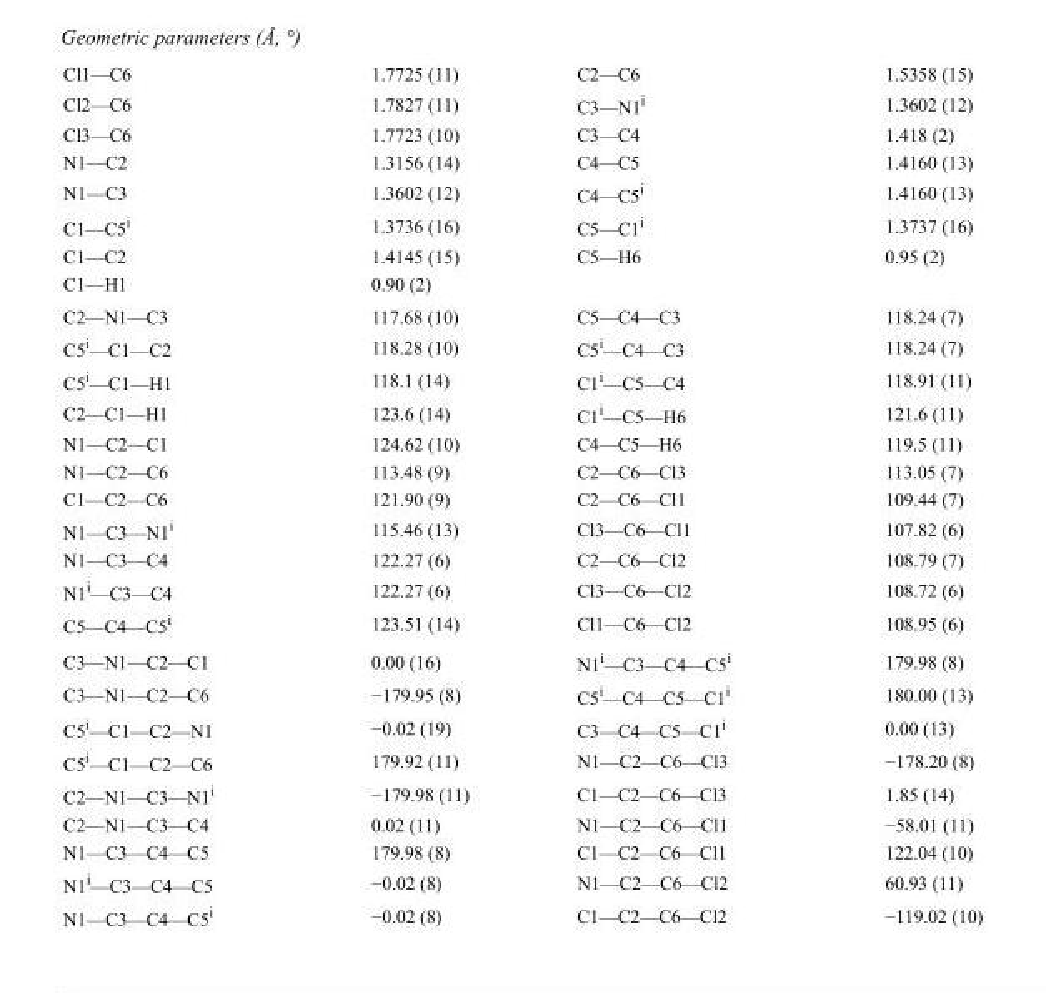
<table><tbody><tr><td>Cl1—C6</td><td>1.7725 (11)</td><td>C2—C6</td><td>1.5358 (15)</td></tr><tr><td>Cl2—C6</td><td>1.7827 (11)</td><td>C3—N1<sup>i</sup></td><td>1.3602 (12)</td></tr><tr><td>Cl3—C6</td><td>1.7723 (10)</td><td>C3—C4</td><td>1.418 (2)</td></tr><tr><td>N1—C2</td><td>1.3156 (14)</td><td>C4—C5</td><td>1.4160 (13)</td></tr><tr><td>N1—C3</td><td>1.3602 (12)</td><td>C4—C5<sup>i</sup></td><td>1.4160 (13)</td></tr><tr><td>C1—C5<sup>i</sup></td><td>1.3736 (16)</td><td>C5—C1<sup>i</sup></td><td>1.3737 (16)</td></tr><tr><td>C1—C2</td><td>1.4145 (15)</td><td>C5—H6</td><td>0.95 (2)</td></tr><tr><td>C1—H1</td><td>0.90 (2)</td><td></td><td></td></tr><tr><td>C2—N1—C3</td><td>117.68 (10)</td><td>C5—C4—C3</td><td>118.24 (7)</td></tr><tr><td>C5<sup>i</sup>—C1—C2</td><td>118.28 (10)</td><td>C5<sup>i</sup>—C4—C3</td><td>118.24 (7)</td></tr><tr><td>C5<sup>i</sup>—C1—H1</td><td>118.1 (14)</td><td>C1<sup>i</sup>—C5—C4</td><td>118.91 (11)</td></tr><tr><td>C2—C1—H1</td><td>123.6 (14)</td><td>C1<sup>i</sup>—C5—H6</td><td>121.6 (11)</td></tr><tr><td>N1—C2—C1</td><td>124.62 (10)</td><td>C4—C5—H6</td><td>119.5 (11)</td></tr><tr><td>N1—C2—C6</td><td>113.48 (9)</td><td>C2—C6—Cl3</td><td>113.05 (7)</td></tr><tr><td>C1—C2—C6</td><td>121.90 (9)</td><td>C2—C6—Cl1</td><td>109.44 (7)</td></tr><tr><td>N1—C3—N1<sup>i</sup></td><td>115.46 (13)</td><td>Cl3—C6—Cl1</td><td>107.82 (6)</td></tr><tr><td>N1—C3—C4</td><td>122.27 (6)</td><td>C2—C6—Cl2</td><td>108.79 (7)</td></tr><tr><td>N1<sup>i</sup>—C3—C4</td><td>122.27 (6)</td><td>Cl3—C6—Cl2</td><td>108.72 (6)</td></tr><tr><td>C5—C4—C5<sup>i</sup></td><td>123.51 (14)</td><td>Cl1—C6—Cl2</td><td>108.95 (6)</td></tr><tr><td>C3—N1—C2—C1</td><td>0.00 (16)</td><td>N1<sup>i</sup>—C3—C4—C5<sup>i</sup></td><td>179.98 (8)</td></tr><tr><td>C3—N1—C2—C6</td><td>−179.95 (8)</td><td>C5<sup>i</sup>—C4—C5—C1<sup>i</sup></td><td>180.00 (13)</td></tr><tr><td>C5<sup>i</sup>—C1—C2—N1</td><td>−0.02 (19)</td><td>C3—C4—C5—C1<sup>i</sup></td><td>0.00 (13)</td></tr><tr><td>C5<sup>i</sup>—C1—C2—C6</td><td>179.92 (11)</td><td>N1—C2—C6—Cl3</td><td>−178.20 (8)</td></tr><tr><td>C2—N1—C3—N1<sup>i</sup></td><td>−179.98 (11)</td><td>C1—C2—C6—Cl3</td><td>1.85 (14)</td></tr><tr><td>C2—N1—C3—C4</td><td>0.02 (11)</td><td>N1—C2—C6—Cl1</td><td>−58.01 (11)</td></tr><tr><td>N1—C3—C4—C5</td><td>179.98 (8)</td><td>C1—C2—C6—Cl1</td><td>122.04 (10)</td></tr><tr><td>N1<sup>i</sup>—C3—C4—C5</td><td>−0.02 (8)</td><td>N1—C2—C6—Cl2</td><td>60.93 (11)</td></tr><tr><td>N1—C3—C4—C5<sup>i</sup></td><td>−0.02 (8)</td><td>C1—C2—C6—Cl2</td><td>−119.02 (10)</td></tr></tbody></table>